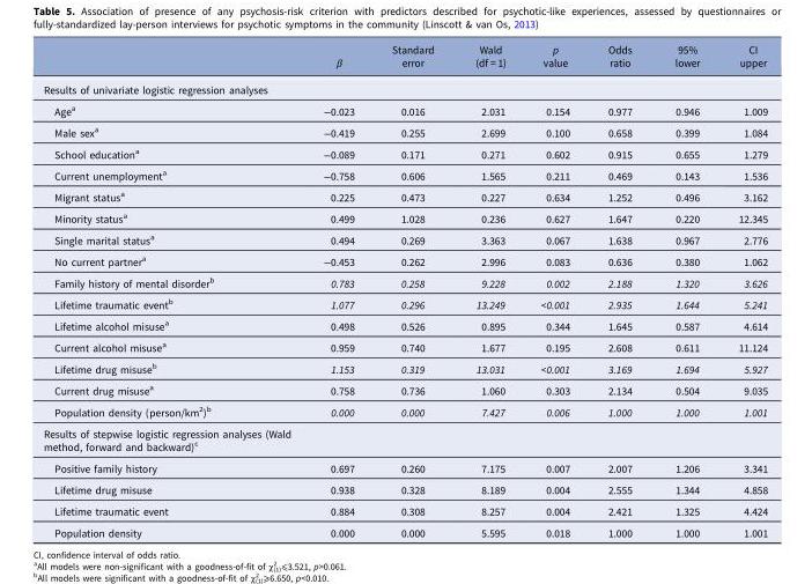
<table><thead><tr><td></td><td>β</td><td>Standard error</td><td>Wald (df = 1)</td><td>p value</td><td>Odds ratio</td><td>95% lower</td><td>CI upper</td></tr></thead><tbody><tr><td colspan="8">Results of univariate logistic regression analyses</td></tr><tr><td>Age<sup>a</sup></td><td>−0.023</td><td>0.016</td><td>2.031</td><td>0.154</td><td>0.977</td><td>0.946</td><td>1.009</td></tr><tr><td>Male sex<sup>a</sup></td><td>−0.419</td><td>0.255</td><td>2.699</td><td>0.100</td><td>0.658</td><td>0.399</td><td>1.084</td></tr><tr><td>School education<sup>a</sup></td><td>−0.089</td><td>0.171</td><td>0.271</td><td>0.602</td><td>0.915</td><td>0.655</td><td>1.279</td></tr><tr><td>Current unemployment<sup>a</sup></td><td>−0.758</td><td>0.606</td><td>1.565</td><td>0.211</td><td>0.469</td><td>0.143</td><td>1.536</td></tr><tr><td>Migrant status<sup>a</sup></td><td>0.225</td><td>0.473</td><td>0.227</td><td>0.634</td><td>1.252</td><td>0.496</td><td>3.162</td></tr><tr><td>Minority status<sup>a</sup></td><td>0.499</td><td>1.028</td><td>0.236</td><td>0.627</td><td>1.647</td><td>0.220</td><td>12.345</td></tr><tr><td>Single marital status<sup>a</sup></td><td>0.494</td><td>0.269</td><td>3.363</td><td>0.067</td><td>1.638</td><td>0.967</td><td>2.776</td></tr><tr><td>No current partner<sup>a</sup></td><td>−0.453</td><td>0.262</td><td>2.996</td><td>0.083</td><td>0.636</td><td>0.380</td><td>1.062</td></tr><tr><td>Family history of mental disorder<sup>b</sup></td><td>0.783</td><td>0.258</td><td>9.228</td><td>0.002</td><td>2.188</td><td>1.320</td><td>3.626</td></tr><tr><td>Lifetime traumatic event<sup>b</sup></td><td>1.077</td><td>0.296</td><td>13.249</td><td>&lt;0.001</td><td>2.935</td><td>1.644</td><td>5.241</td></tr><tr><td>Lifetime alcohol misuse<sup>a</sup></td><td>0.498</td><td>0.526</td><td>0.895</td><td>0.344</td><td>1.645</td><td>0.587</td><td>4.614</td></tr><tr><td>Current alcohol misuse<sup>a</sup></td><td>0.959</td><td>0.740</td><td>1.677</td><td>0.195</td><td>2.608</td><td>0.611</td><td>11.124</td></tr><tr><td>Lifetime drug misuse<sup>b</sup></td><td>1.153</td><td>0.319</td><td>13.031</td><td>&lt;0.001</td><td>3.169</td><td>1.694</td><td>5.927</td></tr><tr><td>Current drug misuse<sup>a</sup></td><td>0.758</td><td>0.736</td><td>1.060</td><td>0.303</td><td>2.134</td><td>0.504</td><td>9.035</td></tr><tr><td>Population density (person/km<sup>2</sup>)<sup>b</sup></td><td>0.000</td><td>0.000</td><td>7.427</td><td>0.006</td><td>1.000</td><td>1.000</td><td>1.001</td></tr><tr><td colspan="8">Results of stepwise logistic regression analyses (Wald method, forward and backward)<sup>c</sup></td></tr><tr><td>Positive family history</td><td>0.697</td><td>0.260</td><td>7.175</td><td>0.007</td><td>2.007</td><td>1.206</td><td>3.341</td></tr><tr><td>Lifetime drug misuse</td><td>0.938</td><td>0.328</td><td>8.189</td><td>0.004</td><td>2.555</td><td>1.344</td><td>4.858</td></tr><tr><td>Lifetime traumatic event</td><td>0.884</td><td>0.308</td><td>8.257</td><td>0.004</td><td>2.421</td><td>1.325</td><td>4.424</td></tr><tr><td>Population density</td><td>0.000</td><td>0.000</td><td>5.595</td><td>0.018</td><td>1.000</td><td>1.000</td><td>1.001</td></tr></tbody></table>